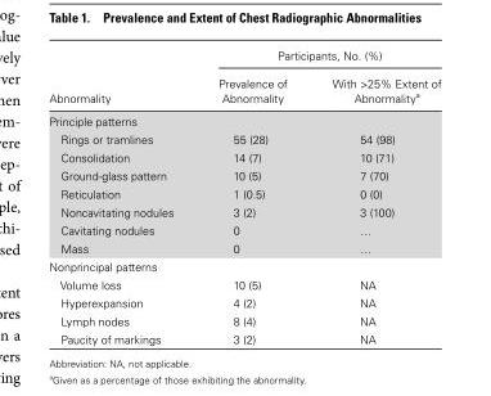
<table><thead><tr><td rowspan="2">Abnormality</td><td colspan="2">Participants, No. (%)</td></tr><tr><td>Prevalence of Abnormality</td><td>With &gt;25% Extent of Abnormality<sup>a</sup></td></tr></thead><tbody><tr><td colspan="3">Principle patterns</td></tr><tr><td>Rings or tramlines</td><td>55 (28)</td><td>54 (98)</td></tr><tr><td>Consolidation</td><td>14 (7)</td><td>10 (71)</td></tr><tr><td>Ground-glass pattern</td><td>10 (5)</td><td>7 (70)</td></tr><tr><td>Reticulation</td><td>1 (0.5)</td><td>0 (0)</td></tr><tr><td>Noncavitating nodules</td><td>3 (2)</td><td>3 (100)</td></tr><tr><td>Cavitating nodules</td><td>0</td><td>…</td></tr><tr><td>Mass</td><td>0</td><td>…</td></tr><tr><td colspan="3">Nonprincipal patterns</td></tr><tr><td>Volume loss</td><td>10 (5)</td><td>NA</td></tr><tr><td>Hyperexpansion</td><td>4 (2)</td><td>NA</td></tr><tr><td>Lymph nodes</td><td>8 (4)</td><td>NA</td></tr><tr><td>Paucity of markings</td><td>3 (2)</td><td>NA</td></tr></tbody></table>